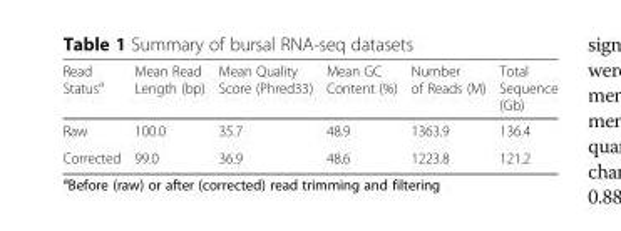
<table><thead><tr><td>Read Status<sup>a</sup></td><td>Mean Read Length (bp)</td><td>Mean Quality Score (Phred33)</td><td>Mean GC Content (%)</td><td>Number of Reads (M)</td><td>Total Sequence (Gb)</td></tr></thead><tbody><tr><td>Raw</td><td>100.0</td><td>35.7</td><td>48.9</td><td>1363.9</td><td>136.4</td></tr><tr><td>Corrected</td><td>99.0</td><td>36.9</td><td>48.6</td><td>1223.8</td><td>121.2</td></tr></tbody></table>